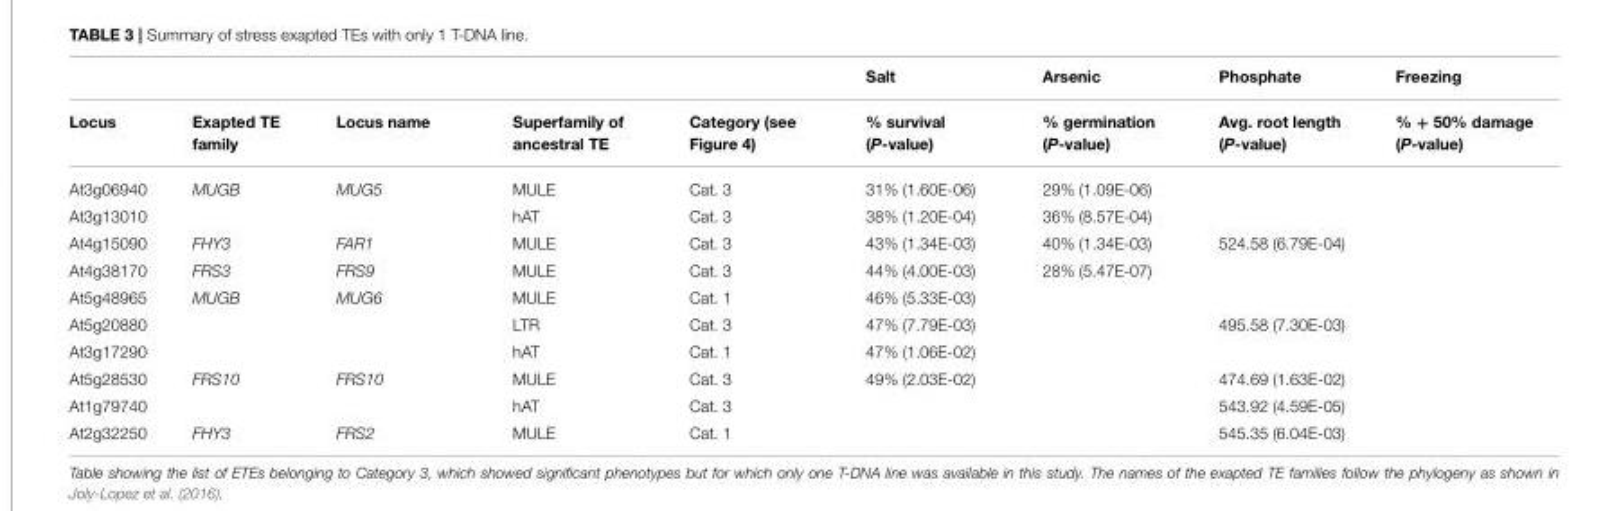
<table><thead><tr><td></td><td></td><td></td><td></td><td></td><td>Salt</td><td>Arsenic</td><td>Phosphate</td><td>Freezing</td></tr></thead><tbody><tr><td>Locus</td><td>Exapted TE family</td><td>Locus name</td><td>Superfamily of ancestral TE</td><td>Category (see Figure 4)</td><td>% survival (P-value)</td><td>% germination (P-value)</td><td>Avg. root length (P-value)</td><td>% + 50% damage (P-value)</td></tr><tr><td>At3g06940</td><td>MUGB</td><td>MUG5</td><td>MULE</td><td>Cat. 3</td><td>31% (1.60E-06)</td><td>29% (1.09E-06)</td><td></td><td></td></tr><tr><td>At3g13010</td><td></td><td></td><td>hAT</td><td>Cat. 3</td><td>38% (1.20E-04)</td><td>36% (8.57E-04)</td><td></td><td></td></tr><tr><td>At4g15090</td><td>FHY3</td><td>FAR1</td><td>MULE</td><td>Cat. 3</td><td>43% (1.34E-03)</td><td>40% (1.34E-03)</td><td>524.58 (6.79E-04)</td><td></td></tr><tr><td>At4g38170</td><td>FRS3</td><td>FRS9</td><td>MULE</td><td>Cat. 3</td><td>44% (4.00E-03)</td><td>28% (5.47E-07)</td><td></td><td></td></tr><tr><td>At5g48965</td><td>MUGB</td><td>MUG6</td><td>MULE</td><td>Cat. 1</td><td>46% (5.33E-03)</td><td></td><td></td><td></td></tr><tr><td>At5g20880</td><td></td><td></td><td>LTR</td><td>Cat. 3</td><td>47% (7.79E-03)</td><td></td><td>495.58 (7.30E-03)</td><td></td></tr><tr><td>At3g17290</td><td></td><td></td><td>hAT</td><td>Cat. 1</td><td>47% (1.06E-02)</td><td></td><td></td><td></td></tr><tr><td>At5g28530</td><td>FRS10</td><td>FRS10</td><td>MULE</td><td>Cat. 3</td><td>49% (2.03E-02)</td><td></td><td>474.69 (1.63E-02)</td><td></td></tr><tr><td>At1g79740</td><td></td><td></td><td>hAT</td><td>Cat. 3</td><td></td><td></td><td>543.92 (4.59E-05)</td><td></td></tr><tr><td>At2g32250</td><td>FHY3</td><td>FRS2</td><td>MULE</td><td>Cat. 1</td><td></td><td></td><td>545.35 (6.04E-03)</td><td></td></tr></tbody></table>